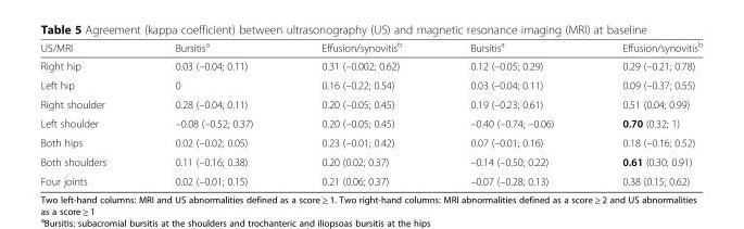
<table><thead><tr><td>US/MRI</td><td>Bursitis<sup>a</sup></td><td>Effusion/synovitis<sup>b</sup></td><td>Bursitis<sup>a</sup></td><td>Effusion/synovitis<sup>b</sup></td></tr></thead><tbody><tr><td>Right hip</td><td>0.03 (–0.04; 0.11)</td><td>0.31 (–0.002; 0.62)</td><td>0.12 (–0.05; 0.29)</td><td>0.29 (–0.21; 0.78)</td></tr><tr><td>Left hip</td><td>0</td><td>0.16 (–0.22; 0.54)</td><td>0.03 (–0.04; 0.11)</td><td>0.09 (–0.37; 0.55)</td></tr><tr><td>Right shoulder</td><td>0.28 (–0.04; 0.11)</td><td>0.20 (–0.05; 0.45)</td><td>0.19 (–0.23; 0.61)</td><td>0.51 (0.04; 0.99)</td></tr><tr><td>Left shoulder</td><td>–0.08 (–0.52; 0.37)</td><td>0.20 (–0.05; 0.45)</td><td>–0.40 (–0.74; –0.06)</td><td>0.70 (0.32; 1)</td></tr><tr><td>Both hips</td><td>0.02 (–0.02; 0.05)</td><td>0.23 (–0.01; 0.42)</td><td>0.07 (–0.01; 0.16)</td><td>0.18 (–0.16; 0.52)</td></tr><tr><td>Both shoulders</td><td>0.11 (–0.16; 0.38)</td><td>0.20 (0.02; 0.37)</td><td>–0.14 (–0.50; 0.22)</td><td>0.61 (0.30; 0.91)</td></tr><tr><td>Four joints</td><td>0.02 (–0.01; 0.15)</td><td>0.21 (0.06; 0.37)</td><td>–0.07 (–0.28; 0.13)</td><td>0.38 (0.15; 0.62)</td></tr></tbody></table>